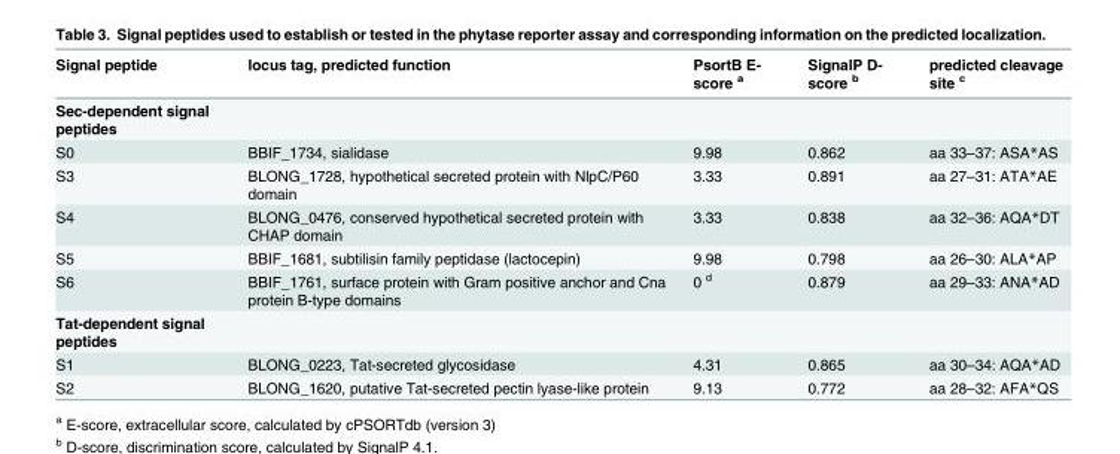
<table><thead><tr><td>Signal peptide</td><td>locus tag, predicted function</td><td>PsortB E- score <sup>a</sup></td><td>SignalP D- score <sup>b</sup></td><td>predicted cleavage site <sup>c</sup></td></tr></thead><tbody><tr><td colspan="5">Sec-dependent signal peptides</td></tr><tr><td>S0</td><td>BBIF_1734, sialidase</td><td>9.98</td><td>0.862</td><td>aa 33–37: ASA*AS</td></tr><tr><td>S3</td><td>BLONG_1728, hypothetical secreted protein with NlpC/P60 domain</td><td>3.33</td><td>0.891</td><td>aa 27–31: ATA*AE</td></tr><tr><td>S4</td><td>BLONG_0476, conserved hypothetical secreted protein with CHAP domain</td><td>3.33</td><td>0.838</td><td>aa 32–36: AQA*DT</td></tr><tr><td>S5</td><td>BBIF_1681, subtilisin family peptidase (lactocepin)</td><td>9.98</td><td>0.798</td><td>aa 26–30: ALA*AP</td></tr><tr><td>S6</td><td>BBIF_1761, surface protein with Gram positive anchor and Cna protein B-type domains</td><td>0 <sup>d</sup></td><td>0.879</td><td>aa 29–33: ANA*AD</td></tr><tr><td colspan="5">Tat-dependent signal peptides</td></tr><tr><td>S1</td><td>BLONG_0223, Tat-secreted glycosidase</td><td>4.31</td><td>0.865</td><td>aa 30–34: AQA*AD</td></tr><tr><td>S2</td><td>BLONG_1620, putative Tat-secreted pectin lyase-like protein</td><td>9.13</td><td>0.772</td><td>aa 28–32: AFA*QS</td></tr></tbody></table>